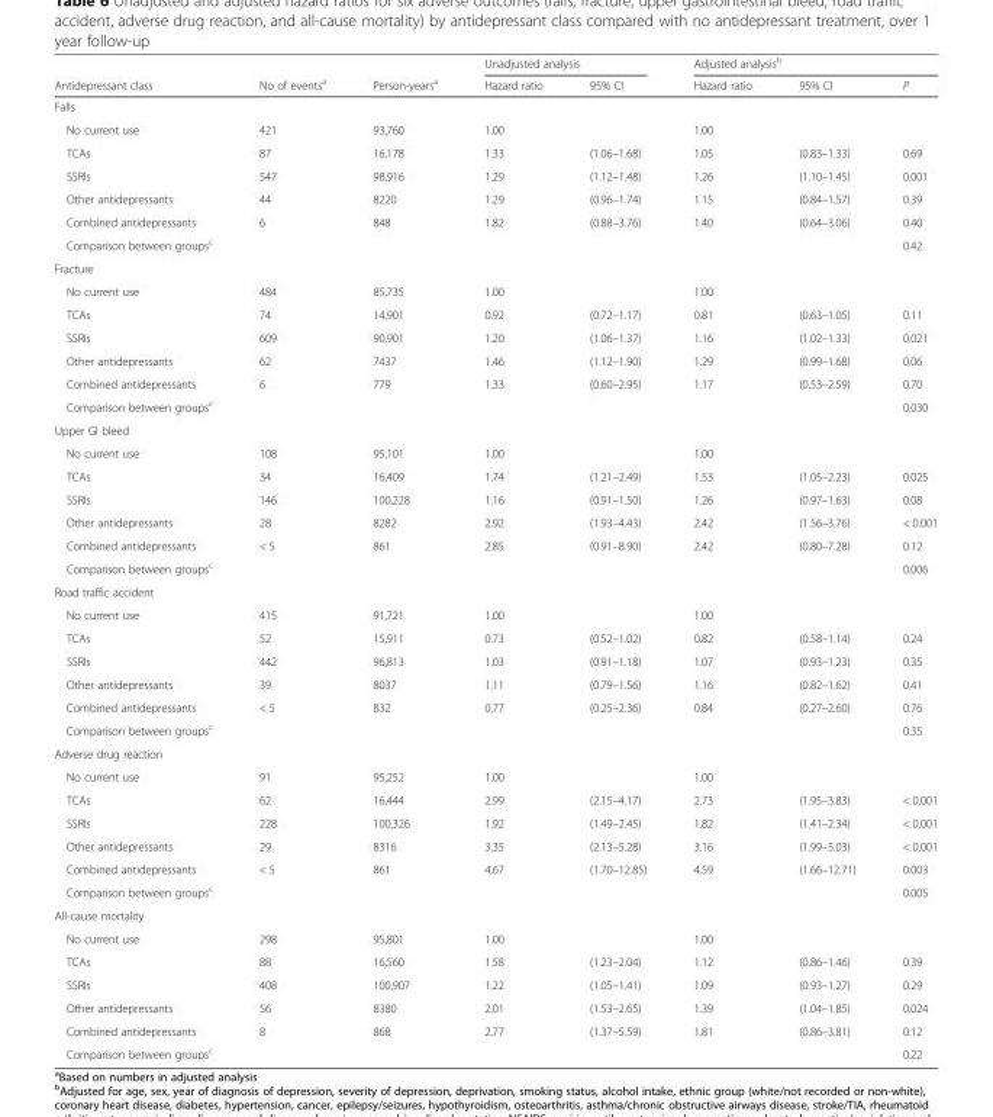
<table><thead><tr><td rowspan="2">Antidepressant class</td><td rowspan="2">No of events<sup>a</sup></td><td rowspan="2">Person-years<sup>a</sup></td><td colspan="2">Unadjusted analysis</td><td colspan="3">Adjusted analysis<sup>b</sup></td></tr><tr><td>Hazard ratio</td><td>95% CI</td><td>Hazard ratio</td><td>95% CI</td><td>P</td></tr></thead><tbody><tr><td colspan="8">Falls</td></tr><tr><td>No current use</td><td>421</td><td>93,760</td><td>1.00</td><td></td><td>1.00</td><td></td><td></td></tr><tr><td>TCAs</td><td>87</td><td>16,178</td><td>1.33</td><td>(1.06–1.68)</td><td>1.05</td><td>(0.83–1.33)</td><td>0.69</td></tr><tr><td>SSRIs</td><td>547</td><td>98,916</td><td>1.29</td><td>(1.12–1.48)</td><td>1.26</td><td>(1.10–1.45)</td><td>0.001</td></tr><tr><td>Other antidepressants</td><td>44</td><td>8220</td><td>1.29</td><td>(0.96–1.74)</td><td>1.15</td><td>(0.84–1.57)</td><td>0.39</td></tr><tr><td>Combined antidepressants</td><td>6</td><td>848</td><td>1.82</td><td>(0.88–3.76)</td><td>1.40</td><td>(0.64–3.06)</td><td>0.40</td></tr><tr><td>Comparison between groups<sup>c</sup></td><td></td><td></td><td></td><td></td><td></td><td></td><td>0.42</td></tr><tr><td colspan="8">Fracture</td></tr><tr><td>No current use</td><td>484</td><td>85,735</td><td>1.00</td><td></td><td>1.00</td><td></td><td></td></tr><tr><td>TCAs</td><td>74</td><td>14,901</td><td>0.92</td><td>(0.72–1.17)</td><td>0.81</td><td>(0.63–1.05)</td><td>0.11</td></tr><tr><td>SSRIs</td><td>609</td><td>90,901</td><td>1.20</td><td>(1.06–1.37)</td><td>1.16</td><td>(1.02–1.33)</td><td>0.021</td></tr><tr><td>Other antidepressants</td><td>62</td><td>7437</td><td>1.46</td><td>(1.12–1.90)</td><td>1.29</td><td>(0.99–1.68)</td><td>0.06</td></tr><tr><td>Combined antidepressants</td><td>6</td><td>779</td><td>1.33</td><td>(0.60–2.95)</td><td>1.17</td><td>(0.53–2.59)</td><td>0.70</td></tr><tr><td>Comparison between groups<sup>c</sup></td><td></td><td></td><td></td><td></td><td></td><td></td><td>0.030</td></tr><tr><td colspan="8">Upper GI bleed</td></tr><tr><td>No current use</td><td>108</td><td>95,101</td><td>1.00</td><td></td><td>1.00</td><td></td><td></td></tr><tr><td>TCAs</td><td>34</td><td>16,409</td><td>1.74</td><td>(1.21–2.49)</td><td>1.53</td><td>(1.05–2.23)</td><td>0.025</td></tr><tr><td>SSRIs</td><td>146</td><td>100,228</td><td>1.16</td><td>(0.91–1.50)</td><td>1.26</td><td>(0.97–1.63)</td><td>0.08</td></tr><tr><td>Other antidepressants</td><td>28</td><td>8282</td><td>2.92</td><td>(1.93–4.43)</td><td>2.42</td><td>(1.56–3.76)</td><td>&lt; 0.001</td></tr><tr><td>Combined antidepressants</td><td>&lt; 5</td><td>861</td><td>2.85</td><td>(0.91–8.90)</td><td>2.42</td><td>(0.80–7.28)</td><td>0.12</td></tr><tr><td>Comparison between groups<sup>c</sup></td><td></td><td></td><td></td><td></td><td></td><td></td><td>0.006</td></tr><tr><td colspan="8">Road traffic accident</td></tr><tr><td>No current use</td><td>415</td><td>91,721</td><td>1.00</td><td></td><td>1.00</td><td></td><td></td></tr><tr><td>TCAs</td><td>52</td><td>15,911</td><td>0.73</td><td>(0.52–1.02)</td><td>0.82</td><td>(0.58–1.14)</td><td>0.24</td></tr><tr><td>SSRIs</td><td>442</td><td>96,813</td><td>1.03</td><td>(0.91–1.18)</td><td>1.07</td><td>(0.93–1.23)</td><td>0.35</td></tr><tr><td>Other antidepressants</td><td>39</td><td>8037</td><td>1.11</td><td>(0.79–1.56)</td><td>1.16</td><td>(0.82–1.62)</td><td>0.41</td></tr><tr><td>Combined antidepressants</td><td>&lt; 5</td><td>832</td><td>0.77</td><td>(0.25–2.36)</td><td>0.84</td><td>(0.27–2.60)</td><td>0.76</td></tr><tr><td>Comparison between groups<sup>c</sup></td><td></td><td></td><td></td><td></td><td></td><td></td><td>0.35</td></tr><tr><td colspan="8">Adverse drug reaction</td></tr><tr><td>No current use</td><td>91</td><td>95,252</td><td>1.00</td><td></td><td>1.00</td><td></td><td></td></tr><tr><td>TCAs</td><td>62</td><td>16,444</td><td>2.99</td><td>(2.15–4.17)</td><td>2.73</td><td>(1.95–3.83)</td><td>&lt; 0.001</td></tr><tr><td>SSRIs</td><td>228</td><td>100,326</td><td>1.92</td><td>(1.49–2.45)</td><td>1.82</td><td>(1.41–2.34)</td><td>&lt; 0.001</td></tr><tr><td>Other antidepressants</td><td>29</td><td>8316</td><td>3.35</td><td>(2.13–5.28)</td><td>3.16</td><td>(1.99–5.03)</td><td>&lt; 0.001</td></tr><tr><td>Combined antidepressants</td><td>&lt; 5</td><td>861</td><td>4.67</td><td>(1.70–12.85)</td><td>4.59</td><td>(1.66–12.71)</td><td>0.003</td></tr><tr><td>Comparison between groups<sup>c</sup></td><td></td><td></td><td></td><td></td><td></td><td></td><td>0.005</td></tr><tr><td colspan="8">All-cause mortality</td></tr><tr><td>No current use</td><td>298</td><td>95,801</td><td>1.00</td><td></td><td>1.00</td><td></td><td></td></tr><tr><td>TCAs</td><td>88</td><td>16,560</td><td>1.58</td><td>(1.23–2.04)</td><td>1.12</td><td>(0.86–1.46)</td><td>0.39</td></tr><tr><td>SSRIs</td><td>408</td><td>100,907</td><td>1.22</td><td>(1.05–1.41)</td><td>1.09</td><td>(0.93–1.27)</td><td>0.29</td></tr><tr><td>Other antidepressants</td><td>56</td><td>8380</td><td>2.01</td><td>(1.53–2.65)</td><td>1.39</td><td>(1.04–1.85)</td><td>0.024</td></tr><tr><td>Combined antidepressants</td><td>8</td><td>868</td><td>2.77</td><td>(1.37–5.59)</td><td>1.81</td><td>(0.86–3.81)</td><td>0.12</td></tr><tr><td>Comparison between groups<sup>c</sup></td><td></td><td></td><td></td><td></td><td></td><td></td><td>0.22</td></tr></tbody></table>